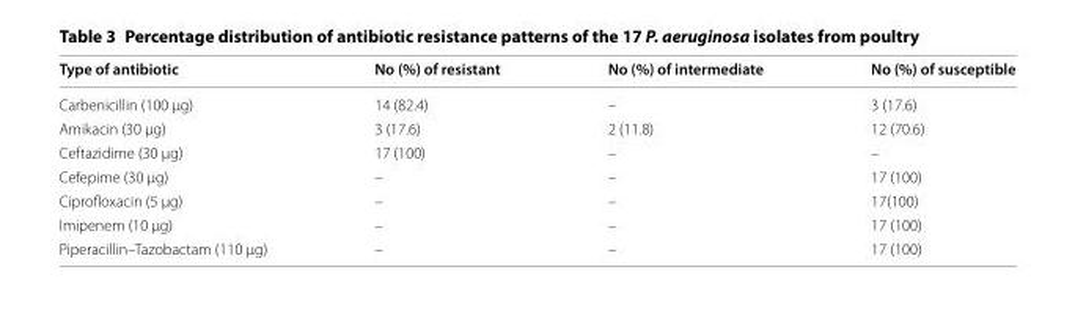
<table><thead><tr><td>Type of antibiotic</td><td>No (%) of resistant</td><td>No (%) of intermediate</td><td>No (%) of susceptible</td></tr></thead><tbody><tr><td>Carbenicillin (100 µg)</td><td>14 (82.4)</td><td>–</td><td>3 (17.6)</td></tr><tr><td>Amikacin (30 µg)</td><td>3 (17.6)</td><td>2 (11.8)</td><td>12 (70.6)</td></tr><tr><td>Ceftazidime (30 µg)</td><td>17 (100)</td><td>–</td><td>–</td></tr><tr><td>Cefepime (30 µg)</td><td>–</td><td>–</td><td>17 (100)</td></tr><tr><td>Ciprofloxacin (5 µg)</td><td>–</td><td>–</td><td>17(100)</td></tr><tr><td>Imipenem (10 µg)</td><td>–</td><td>–</td><td>17 (100)</td></tr><tr><td>Piperacillin–Tazobactam (110 µg)</td><td>–</td><td>–</td><td>17 (100)</td></tr></tbody></table>